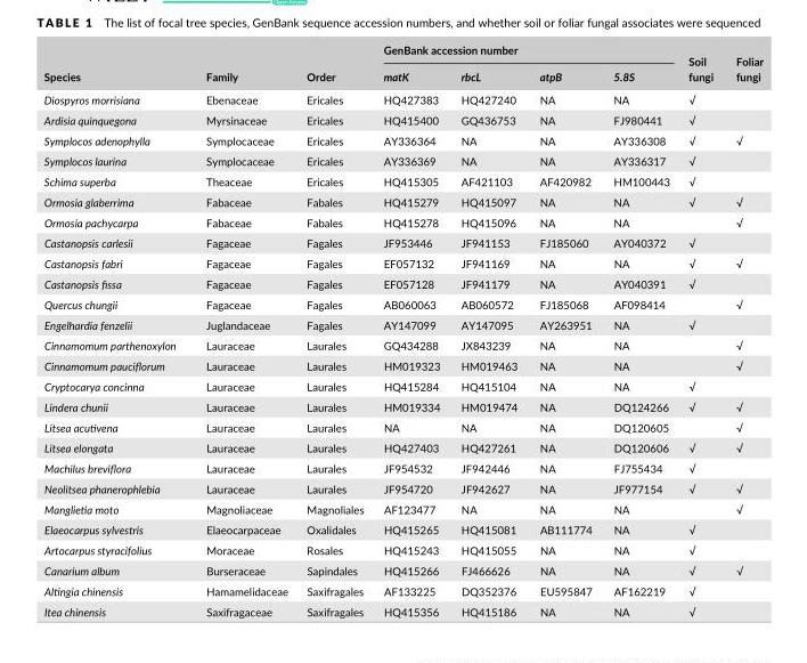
<table><thead><tr><td rowspan="2">Species</td><td rowspan="2">Family</td><td rowspan="2">Order</td><td colspan="4">GenBank accession number</td><td rowspan="2">Soil fungi</td><td rowspan="2">Foliar fungi</td></tr><tr><td>matK</td><td>rbcL</td><td>atpB</td><td>5.8S</td></tr></thead><tbody><tr><td>Diospyros morrisiana</td><td>Ebenaceae</td><td>Ericales</td><td>HQ427383</td><td>HQ427240</td><td>NA</td><td>NA</td><td>√</td><td></td></tr><tr><td>Ardisia quinquegona</td><td>Myrsinaceae</td><td>Ericales</td><td>HQ415400</td><td>GQ436753</td><td>NA</td><td>FJ980441</td><td>√</td><td></td></tr><tr><td>Symplocos adenophylla</td><td>Symplocaceae</td><td>Ericales</td><td>AY336364</td><td>NA</td><td>NA</td><td>AY336308</td><td>√</td><td>√</td></tr><tr><td>Symplocos laurina</td><td>Symplocaceae</td><td>Ericales</td><td>AY336369</td><td>NA</td><td>NA</td><td>AY336317</td><td>√</td><td></td></tr><tr><td>Schima superba</td><td>Theaceae</td><td>Ericales</td><td>HQ415305</td><td>AF421103</td><td>AF420982</td><td>HM100443</td><td>√</td><td></td></tr><tr><td>Ormosia glaberrima</td><td>Fabaceae</td><td>Fabales</td><td>HQ415279</td><td>HQ415097</td><td>NA</td><td>NA</td><td>√</td><td>√</td></tr><tr><td>Ormosia pachycarpa</td><td>Fabaceae</td><td>Fabales</td><td>HQ415278</td><td>HQ415096</td><td>NA</td><td>NA</td><td></td><td>√</td></tr><tr><td>Castanopsis carlesii</td><td>Fagaceae</td><td>Fagales</td><td>JF953446</td><td>JF941153</td><td>FJ185060</td><td>AY040372</td><td>√</td><td></td></tr><tr><td>Castanopsis fabri</td><td>Fagaceae</td><td>Fagales</td><td>EF057132</td><td>JF941169</td><td>NA</td><td>NA</td><td>√</td><td>√</td></tr><tr><td>Castanopsis fissa</td><td>Fagaceae</td><td>Fagales</td><td>EF057128</td><td>JF941179</td><td>NA</td><td>AY040391</td><td>√</td><td></td></tr><tr><td>Quercus chungii</td><td>Fagaceae</td><td>Fagales</td><td>AB060063</td><td>AB060572</td><td>FJ185068</td><td>AF098414</td><td></td><td>√</td></tr><tr><td>Engelhardia fenzelii</td><td>Juglandaceae</td><td>Fagales</td><td>AY147099</td><td>AY147095</td><td>AY263951</td><td>NA</td><td>√</td><td></td></tr><tr><td>Cinnamomum parthenoxylon</td><td>Lauraceae</td><td>Laurales</td><td>GQ434288</td><td>JX843239</td><td>NA</td><td>NA</td><td></td><td>√</td></tr><tr><td>Cinnamomum pauciflorum</td><td>Lauraceae</td><td>Laurales</td><td>HM019323</td><td>HM019463</td><td>NA</td><td>NA</td><td></td><td>√</td></tr><tr><td>Cryptocarya concinna</td><td>Lauraceae</td><td>Laurales</td><td>HQ415284</td><td>HQ415104</td><td>NA</td><td>NA</td><td>√</td><td></td></tr><tr><td>Lindera chunii</td><td>Lauraceae</td><td>Laurales</td><td>HM019334</td><td>HM019474</td><td>NA</td><td>DQ124266</td><td>√</td><td>√</td></tr><tr><td>Litsea acutivena</td><td>Lauraceae</td><td>Laurales</td><td>NA</td><td>NA</td><td>NA</td><td>DQ120605</td><td></td><td>√</td></tr><tr><td>Litsea elongata</td><td>Lauraceae</td><td>Laurales</td><td>HQ427403</td><td>HQ427261</td><td>NA</td><td>DQ120606</td><td>√</td><td>√</td></tr><tr><td>Machilus breviflora</td><td>Lauraceae</td><td>Laurales</td><td>JF954532</td><td>JF942446</td><td>NA</td><td>FJ755434</td><td>√</td><td></td></tr><tr><td>Neolitsea phanerophlebia</td><td>Lauraceae</td><td>Laurales</td><td>JF954720</td><td>JF942627</td><td>NA</td><td>JF977154</td><td>√</td><td>√</td></tr><tr><td>Manglietia moto</td><td>Magnoliaceae</td><td>Magnoliales</td><td>AF123477</td><td>NA</td><td>NA</td><td>NA</td><td></td><td>√</td></tr><tr><td>Elaeocarpus sylvestris</td><td>Elaeocarpaceae</td><td>Oxalidales</td><td>HQ415265</td><td>HQ415081</td><td>AB111774</td><td>NA</td><td>√</td><td></td></tr><tr><td>Artocarpus styracifolius</td><td>Moraceae</td><td>Rosales</td><td>HQ415243</td><td>HQ415055</td><td>NA</td><td>NA</td><td>√</td><td></td></tr><tr><td>Canarium album</td><td>Burseraceae</td><td>Sapindales</td><td>HQ415266</td><td>FJ466626</td><td>NA</td><td>NA</td><td>√</td><td>√</td></tr><tr><td>Altingia chinensis</td><td>Hamamelidaceae</td><td>Saxifragales</td><td>AF133225</td><td>DQ352376</td><td>EU595847</td><td>AF162219</td><td>√</td><td></td></tr><tr><td>Itea chinensis</td><td>Saxifragaceae</td><td>Saxifragales</td><td>HQ415356</td><td>HQ415186</td><td>NA</td><td>NA</td><td>√</td><td></td></tr></tbody></table>